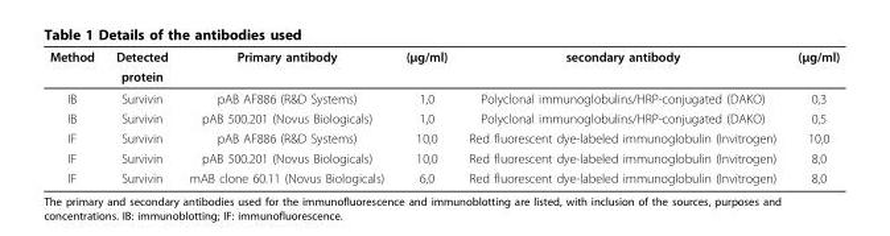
<table><thead><tr><td rowspan="2">Method</td><td rowspan="2">Detected protein</td><td rowspan="2">Primary antibody</td><td rowspan="2">(μg/ml)</td><td rowspan="2">secondary antibody</td><td rowspan="2">(μg/ml)</td></tr><tr></tr></thead><tbody><tr><td>IB</td><td>Survivin</td><td>pAB AF886 (R&amp;D Systems)</td><td>1,0</td><td>Polyclonal immunoglobulins/HRP-conjugated (DAKO)</td><td>0,3</td></tr><tr><td>IB</td><td>Survivin</td><td>pAB 500.201 (Novus Biologicals)</td><td>1,0</td><td>Polyclonal immunoglobulins/HRP-conjugated (DAKO)</td><td>0,5</td></tr><tr><td>IF</td><td>Survivin</td><td>pAB AF886 (R&amp;D Systems)</td><td>10,0</td><td>Red fluorescent dye-labeled immunoglobulin (Invitrogen)</td><td>10,0</td></tr><tr><td>IF</td><td>Survivin</td><td>pAB 500.201 (Novus Biologicals)</td><td>10,0</td><td>Red fluorescent dye-labeled immunoglobulin (Invitrogen)</td><td>8,0</td></tr><tr><td>IF</td><td>Survivin</td><td>mAB clone 60.11 (Novus Biologicals)</td><td>6,0</td><td>Red fluorescent dye-labeled immunoglobulin (Invitrogen)</td><td>8,0</td></tr></tbody></table>